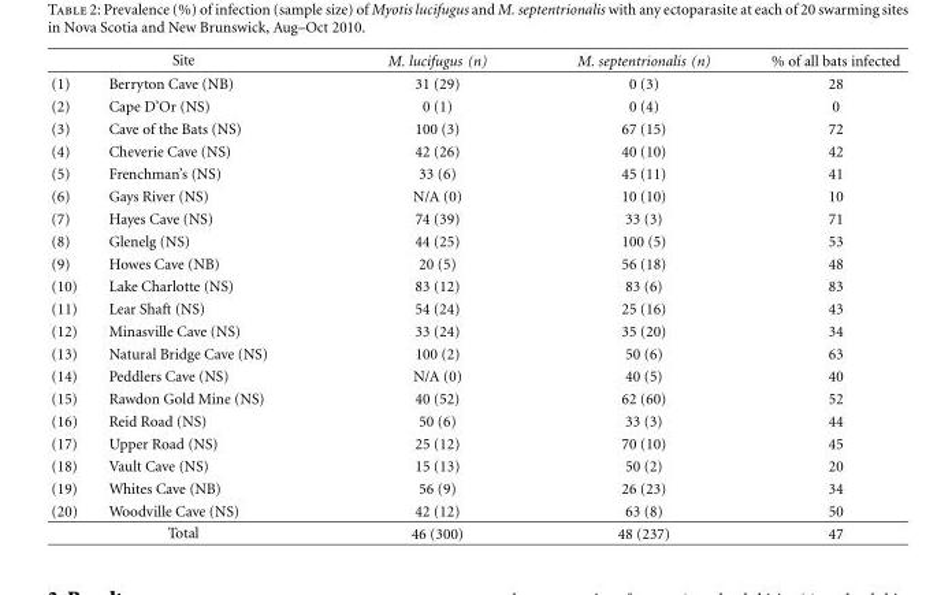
<table><thead><tr><td colspan="2">Site</td><td rowspan="2">M. lucifugus (n) 31 (29)</td><td rowspan="2">M. septentrionalis (n) 0 (3)</td><td rowspan="2">% of all bats infected 28</td></tr><tr><td>(1)</td><td>Berryton Cave (NB)</td></tr></thead><tbody><tr><td>(2)</td><td>Cape D’Or (NS)</td><td>0 (1)</td><td>0 (4)</td><td>0</td></tr><tr><td>(3)</td><td>Cave of the Bats (NS)</td><td>100 (3)</td><td>67 (15)</td><td>72</td></tr><tr><td>(4)</td><td>Cheverie Cave (NS)</td><td>42 (26)</td><td>40 (10)</td><td>42</td></tr><tr><td>(5)</td><td>Frenchman’s (NS)</td><td>33 (6)</td><td>45 (11)</td><td>41</td></tr><tr><td>(6)</td><td>Gays River (NS)</td><td>N/A (0)</td><td>10 (10)</td><td>10</td></tr><tr><td>(7)</td><td>Hayes Cave (NS)</td><td>74 (39)</td><td>33 (3)</td><td>71</td></tr><tr><td>(8)</td><td>Glenelg (NS)</td><td>44 (25)</td><td>100 (5)</td><td>53</td></tr><tr><td>(9)</td><td>Howes Cave (NB)</td><td>20 (5)</td><td>56 (18)</td><td>48</td></tr><tr><td>(10)</td><td>Lake Charlotte (NS)</td><td>83 (12)</td><td>83 (6)</td><td>83</td></tr><tr><td>(11)</td><td>Lear Shaft (NS)</td><td>54 (24)</td><td>25 (16)</td><td>43</td></tr><tr><td>(12)</td><td>Minasville Cave (NS)</td><td>33 (24)</td><td>35 (20)</td><td>34</td></tr><tr><td>(13)</td><td>Natural Bridge Cave (NS)</td><td>100 (2)</td><td>50 (6)</td><td>63</td></tr><tr><td>(14)</td><td>Peddlers Cave (NS)</td><td>N/A (0)</td><td>40 (5)</td><td>40</td></tr><tr><td>(15)</td><td>Rawdon Gold Mine (NS)</td><td>40 (52)</td><td>62 (60)</td><td>52</td></tr><tr><td>(16)</td><td>Reid Road (NS)</td><td>50 (6)</td><td>33 (3)</td><td>44</td></tr><tr><td>(17)</td><td>Upper Road (NS)</td><td>25 (12)</td><td>70 (10)</td><td>45</td></tr><tr><td>(18)</td><td>Vault Cave (NS)</td><td>15 (13)</td><td>50 (2)</td><td>20</td></tr><tr><td>(19)</td><td>Whites Cave (NB)</td><td>56 (9)</td><td>26 (23)</td><td>34</td></tr><tr><td>(20)</td><td>Woodville Cave (NS)</td><td>42 (12)</td><td>63 (8)</td><td>50</td></tr><tr><td colspan="2">Total</td><td>46 (300)</td><td>48 (237)</td><td>47</td></tr></tbody></table>